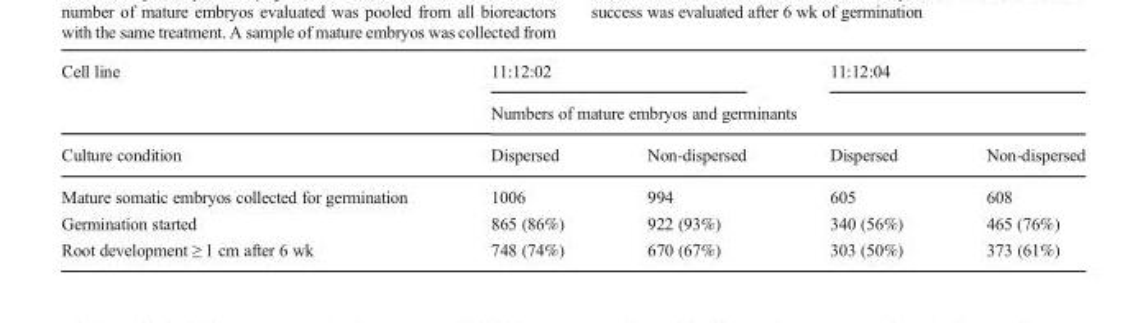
<table><thead><tr><td rowspan="3">Cell line Culture condition</td><td colspan="2">11:12:02</td><td colspan="2">11:12:04</td></tr><tr><td colspan="4">Numbers of mature embryos and germinants</td></tr><tr><td>Dispersed</td><td>Non-dispersed</td><td>Dispersed</td><td>Non-dispersed</td></tr></thead><tbody><tr><td>Mature somatic embryos collected for germination</td><td>1006</td><td>994</td><td>605</td><td>608</td></tr><tr><td>Germination started</td><td>865 (86%)</td><td>922 (93%)</td><td>340 (56%)</td><td>465 (76%)</td></tr><tr><td>Root development ≥ 1 cm after 6 wk</td><td>748 (74%)</td><td>670 (67%)</td><td>303 (50%)</td><td>373 (61%)</td></tr></tbody></table>